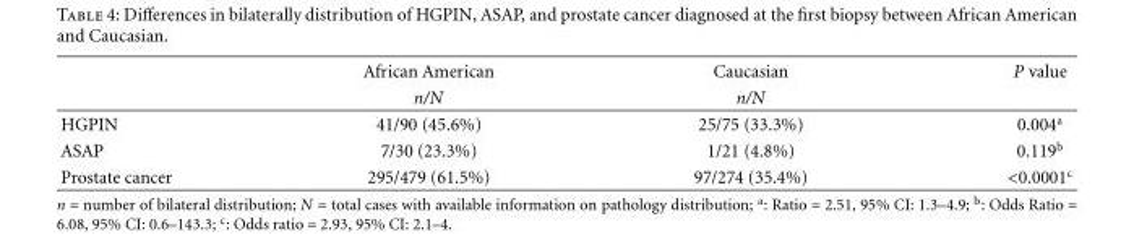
<table><thead><tr><td rowspan="2"></td><td rowspan="2">African American n/N</td><td rowspan="2">Caucasian n/N</td><td rowspan="2">P value</td></tr><tr></tr></thead><tbody><tr><td>HGPIN</td><td>41/90 (45.6%)</td><td>25/75 (33.3%)</td><td>0.004<sup>a</sup></td></tr><tr><td>ASAP</td><td>7/30 (23.3%)</td><td>1/21 (4.8%)</td><td>0.119<sup>b</sup></td></tr><tr><td>Prostate cancer</td><td>295/479 (61.5%)</td><td>97/274 (35.4%)</td><td>&lt;0.0001<sup>c</sup></td></tr></tbody></table>